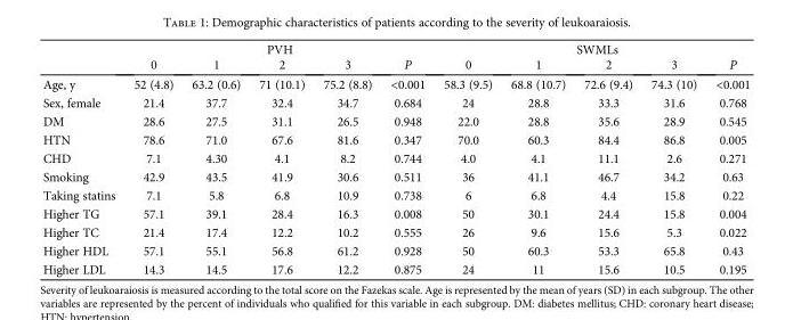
<table><thead><tr><td rowspan="2"></td><td colspan="5">PVH</td><td colspan="5">SWMLs</td></tr><tr><td>0</td><td>1</td><td>2</td><td>3</td><td>P</td><td>0</td><td>1</td><td>2</td><td>3</td><td>P</td></tr></thead><tbody><tr><td>Age, y</td><td>52 (4.8)</td><td>63.2 (0.6)</td><td>71 (10.1)</td><td>75.2 (8.8)</td><td>&lt;0.001</td><td>58.3 (9.5)</td><td>68.8 (10.7)</td><td>72.6 (9.4)</td><td>74.3 (10)</td><td>&lt;0.001</td></tr><tr><td>Sex, female</td><td>21.4</td><td>37.7</td><td>32.4</td><td>34.7</td><td>0.684</td><td>24</td><td>28.8</td><td>33.3</td><td>31.6</td><td>0.768</td></tr><tr><td>DM</td><td>28.6</td><td>27.5</td><td>31.1</td><td>26.5</td><td>0.948</td><td>22.0</td><td>28.8</td><td>35.6</td><td>28.9</td><td>0.545</td></tr><tr><td>HTN</td><td>78.6</td><td>71.0</td><td>67.6</td><td>81.6</td><td>0.347</td><td>70.0</td><td>60.3</td><td>84.4</td><td>86.8</td><td>0.005</td></tr><tr><td>CHD</td><td>7.1</td><td>4.30</td><td>4.1</td><td>8.2</td><td>0.744</td><td>4.0</td><td>4.1</td><td>11.1</td><td>2.6</td><td>0.271</td></tr><tr><td>Smoking</td><td>42.9</td><td>43.5</td><td>41.9</td><td>30.6</td><td>0.511</td><td>36</td><td>41.1</td><td>46.7</td><td>34.2</td><td>0.63</td></tr><tr><td>Taking statins</td><td>7.1</td><td>5.8</td><td>6.8</td><td>10.9</td><td>0.738</td><td>6</td><td>6.8</td><td>4.4</td><td>15.8</td><td>0.22</td></tr><tr><td>Higher TG</td><td>57.1</td><td>39.1</td><td>28.4</td><td>16.3</td><td>0.008</td><td>50</td><td>30.1</td><td>24.4</td><td>15.8</td><td>0.004</td></tr><tr><td>Higher TC</td><td>21.4</td><td>17.4</td><td>12.2</td><td>10.2</td><td>0.555</td><td>26</td><td>9.6</td><td>15.6</td><td>5.3</td><td>0.022</td></tr><tr><td>Higher HDL</td><td>57.1</td><td>55.1</td><td>56.8</td><td>61.2</td><td>0.928</td><td>50</td><td>60.3</td><td>53.3</td><td>65.8</td><td>0.43</td></tr><tr><td>Higher LDL</td><td>14.3</td><td>14.5</td><td>17.6</td><td>12.2</td><td>0.875</td><td>24</td><td>11</td><td>15.6</td><td>10.5</td><td>0.195</td></tr></tbody></table>